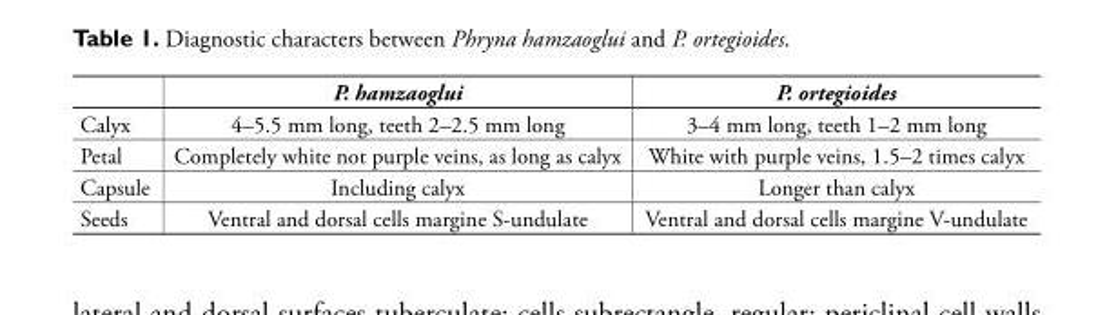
<table><thead><tr><td></td><td>P. hamzaoglui</td><td>P. ortegioides</td></tr></thead><tbody><tr><td>Calyx</td><td>4–5.5 mm long, teeth 2–2.5 mm long</td><td>3–4 mm long, teeth 1–2 mm long</td></tr><tr><td>Petal</td><td>Completely white not purple veins, as long as calyx</td><td>White with purple veins, 1.5–2 times calyx</td></tr><tr><td>Capsule</td><td>Including calyx</td><td>Longer than calyx</td></tr><tr><td>Seeds</td><td>Ventral and dorsal cells margine S-undulate</td><td>Ventral and dorsal cells margine V-undulate</td></tr></tbody></table>